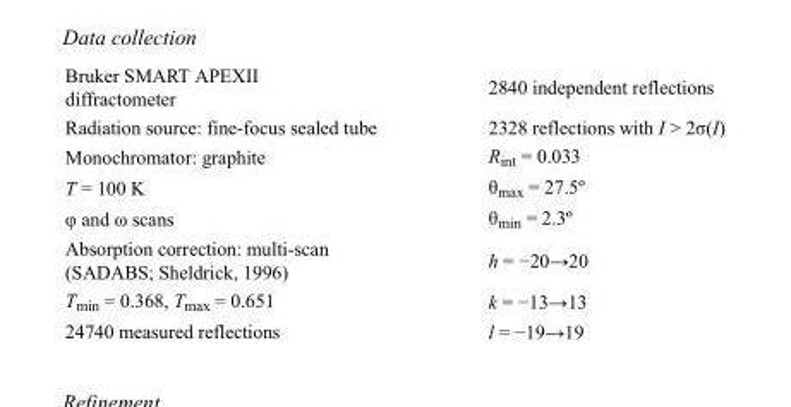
<table><tbody><tr><td>Bruker SMART APEXII diffractometer</td><td>2840 independent reflections</td></tr><tr><td>Radiation source: fine-focus sealed tube</td><td>2328 reflections with I &gt; 2σ(I)</td></tr><tr><td>Monochromator: graphite</td><td>R<sub>int</sub> = 0.033</td></tr><tr><td>T = 100 K</td><td>θ<sub>max</sub> = 27.5º</td></tr><tr><td>φ and ω scans</td><td>θ<sub>min</sub> = 2.3º</td></tr><tr><td>Absorption correction: multi-scan (SADABS; Sheldrick, 1996)</td><td>h = −20→20</td></tr><tr><td>T<sub>min</sub> = 0.368, T<sub>max</sub> = 0.651</td><td>k = −13→13</td></tr><tr><td>24740 measured reflections</td><td>l = −19→19</td></tr></tbody></table>